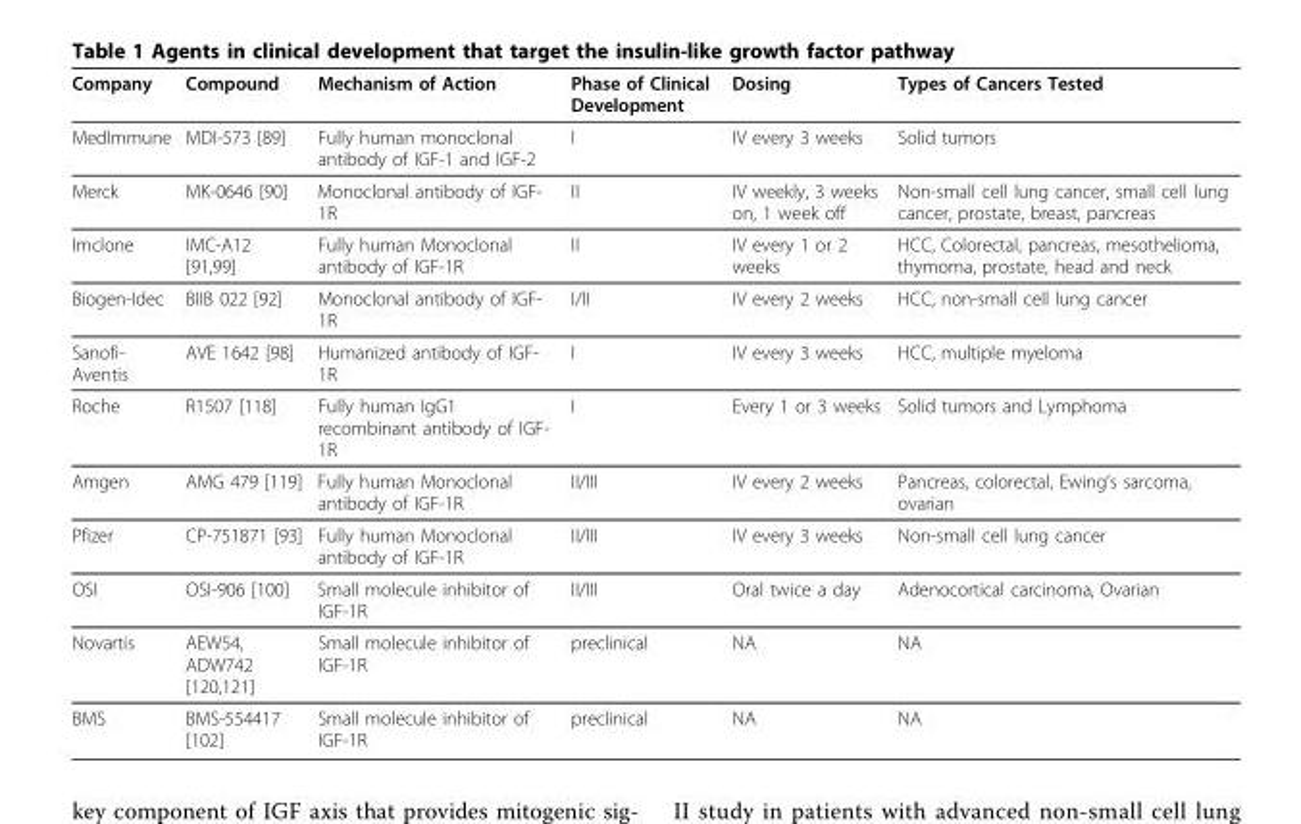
<table><thead><tr><td>Company</td><td>Compound</td><td>Mechanism of Action</td><td>Phase of Clinical Development</td><td>Dosing</td><td>Types of Cancers Tested</td></tr></thead><tbody><tr><td>MedImmune</td><td>MDI-573 [89]</td><td>Fully human monoclonal antibody of IGF-1 and IGF-2</td><td>I</td><td>IV every 3 weeks</td><td>Solid tumors</td></tr><tr><td>Merck</td><td>MK-0646 [90]</td><td>Monoclonal antibody of IGF- 1R</td><td>II</td><td>IV weekly, 3 weeks on, 1 week off</td><td>Non-small cell lung cancer, small cell lung cancer, prostate, breast, pancreas</td></tr><tr><td>Imclone</td><td>IMC-A12 [91,99]</td><td>Fully human Monoclonal antibody of IGF-1R</td><td>II</td><td>IV every 1 or 2 weeks</td><td>HCC, Colorectal, pancreas, mesothelioma, thymoma, prostate, head and neck</td></tr><tr><td>Biogen-Idec</td><td>BIIB 022 [92]</td><td>Monoclonal antibody of IGF- 1R</td><td>I/II</td><td>IV every 2 weeks</td><td>HCC, non-small cell lung cancer</td></tr><tr><td>Sanofi- Aventis</td><td>AVE 1642 [98]</td><td>Humanized antibody of IGF- 1R</td><td>I</td><td>IV every 3 weeks</td><td>HCC, multiple myeloma</td></tr><tr><td>Roche</td><td>R1507 [118]</td><td>Fully human IgG1 recombinant antibody of IGF- 1R</td><td>I</td><td>Every 1 or 3 weeks</td><td>Solid tumors and Lymphoma</td></tr><tr><td>Amgen</td><td>AMG 479 [119]</td><td>Fully human Monoclonal antibody of IGF-1R</td><td>II/III</td><td>IV every 2 weeks</td><td>Pancreas, colorectal, Ewing’s sarcoma, ovarian</td></tr><tr><td>Pfizer</td><td>CP-751871 [93]</td><td>Fully human Monoclonal antibody of IGF-1R</td><td>II/III</td><td>IV every 3 weeks</td><td>Non-small cell lung cancer</td></tr><tr><td>OSI</td><td>OSI-906 [100]</td><td>Small molecule inhibitor of IGF-1R</td><td>II/III</td><td>Oral twice a day</td><td>Adenocortical carcinoma, Ovarian</td></tr><tr><td>Novartis</td><td>AEW54, ADW742 [120,121]</td><td>Small molecule inhibitor of IGF-1R</td><td>preclinical</td><td>NA</td><td>NA</td></tr><tr><td>BMS</td><td>BMS-554417 [102]</td><td>Small molecule inhibitor of IGF-1R</td><td>preclinical</td><td>NA</td><td>NA</td></tr></tbody></table>